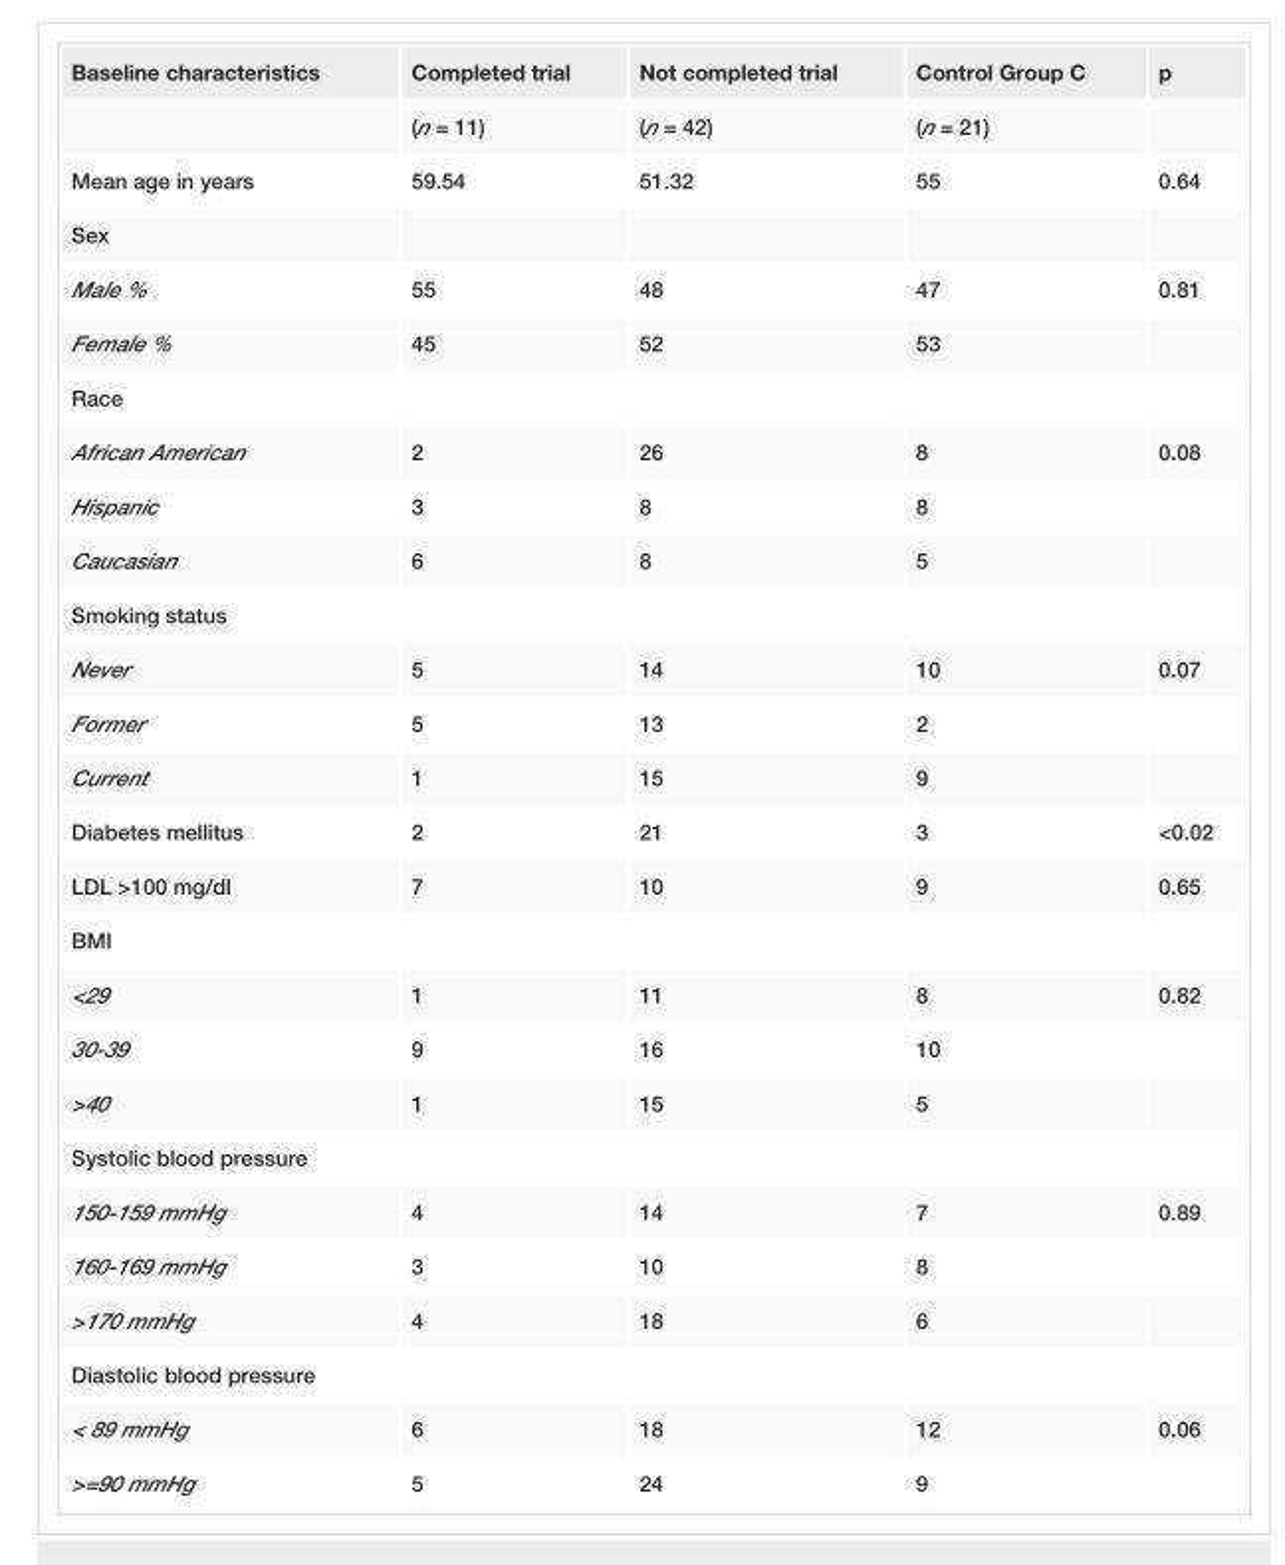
<table><tbody><tr><td rowspan="2">Baseline characteristics</td><td>Completed trial</td><td>Not completed trial</td><td>Control Group C</td><td>p</td></tr><tr><td>(n = 11)</td><td>(n = 42)</td><td>(n = 21)</td><td></td></tr><tr><td>Mean age in years</td><td>59.54</td><td>51.32</td><td>55</td><td>0.64</td></tr><tr><td colspan="5">Sex</td></tr><tr><td>Male %</td><td>55</td><td>48</td><td>47</td><td>0.81</td></tr><tr><td>Female %</td><td>45</td><td>52</td><td>53</td><td></td></tr><tr><td colspan="5">Race</td></tr><tr><td>African American</td><td>2</td><td>26</td><td>8</td><td>0.08</td></tr><tr><td>Hispanic</td><td>3</td><td>8</td><td>8</td><td></td></tr><tr><td>Caucasian</td><td>6</td><td>8</td><td>5</td><td></td></tr><tr><td colspan="5">Smoking status</td></tr><tr><td>Never</td><td>5</td><td>14</td><td>10</td><td>0.07</td></tr><tr><td>Former</td><td>5</td><td>13</td><td>2</td><td></td></tr><tr><td>Current</td><td>1</td><td>15</td><td>9</td><td></td></tr><tr><td>Diabetes mellitus</td><td>2</td><td>21</td><td>3</td><td>&lt;0.02</td></tr><tr><td>LDL &gt;100 mg/dl</td><td>7</td><td>10</td><td>9</td><td>0.65</td></tr><tr><td colspan="5">BMI</td></tr><tr><td>&lt;29</td><td>1</td><td>11</td><td>8</td><td>0.82</td></tr><tr><td>30-39</td><td>9</td><td>16</td><td>10</td><td></td></tr><tr><td>&gt;40</td><td>1</td><td>15</td><td>5</td><td></td></tr><tr><td colspan="5">Systolic blood pressure</td></tr><tr><td>150-159 mmHg</td><td>4</td><td>14</td><td>7</td><td>0.89</td></tr><tr><td>160-169 mmHg</td><td>3</td><td>10</td><td>8</td><td></td></tr><tr><td>&gt;170 mmHg</td><td>4</td><td>18</td><td>6</td><td></td></tr><tr><td colspan="5">Diastolic blood pressure</td></tr><tr><td>&lt; 89 mmHg</td><td>6</td><td>18</td><td>12</td><td>0.06</td></tr><tr><td>&gt;=90 mmHg</td><td>5</td><td>24</td><td>9</td><td></td></tr></tbody></table>